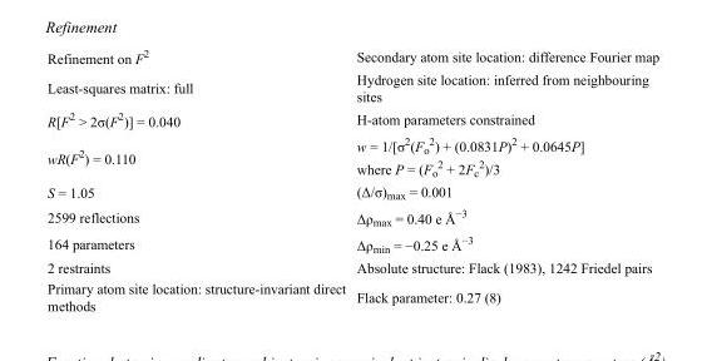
<table><tbody><tr><td>Refinement on F<sup>2</sup></td><td>Secondary atom site location: difference Fourier map</td></tr><tr><td>Least-squares matrix: full</td><td>Hydrogen site location: inferred from neighbouring sites</td></tr><tr><td>R[F<sup>2</sup> &gt; 2σ(F<sup>2</sup>)] = 0.040</td><td>H-atom parameters constrained</td></tr><tr><td>wR(F<sup>2</sup>) = 0.110</td><td>w = 1/[σ<sup>2</sup>(F<sub>o</sub> <sup>2</sup>) + (0.0831P)<sup>2</sup> + 0.0645P] where P = (F<sub>o</sub> <sup>2</sup> + 2F<sub>c</sub> <sup>2</sup>)/3</td></tr><tr><td>S = 1.05</td><td>(Δ/σ)<sub>max</sub> = 0.001</td></tr><tr><td>2599 reflections</td><td>Δρ<sub>max</sub> = 0.40 e Å<sup>−3</sup></td></tr><tr><td>164 parameters</td><td>Δρ<sub>min</sub> = −0.25 e Å<sup>−3</sup></td></tr><tr><td>2 restraints</td><td>Absolute structure: Flack (1983), 1242 Friedel pairs</td></tr><tr><td>Primary atom site location: structure-invariant direct methods</td><td>Flack parameter: 0.27 (8)</td></tr></tbody></table>